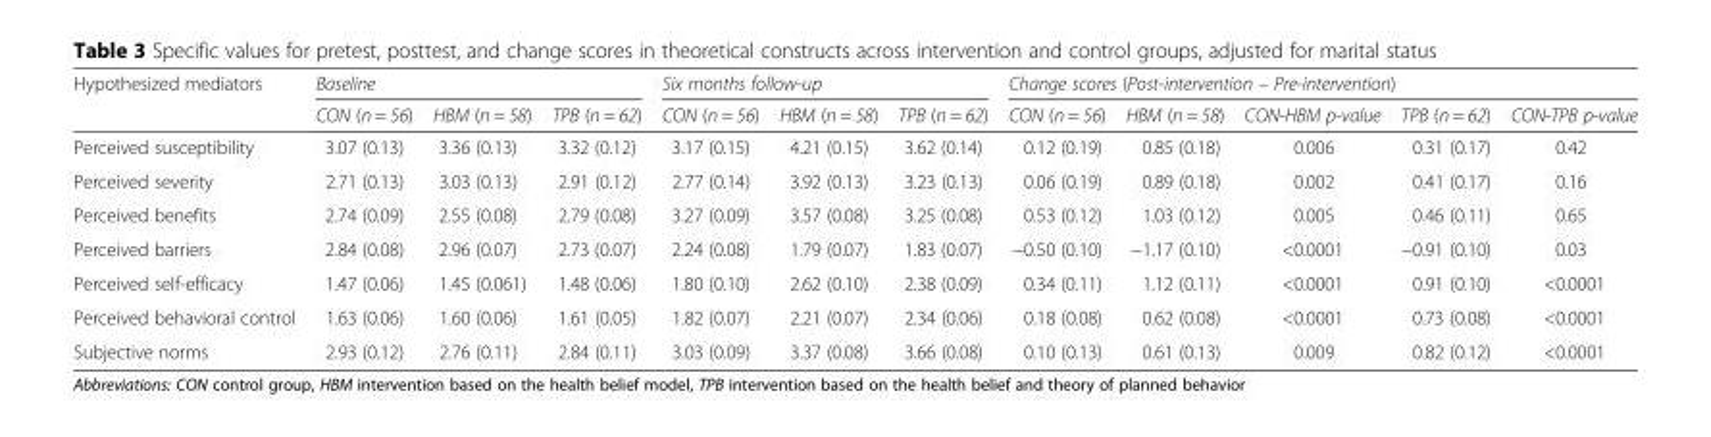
<table><thead><tr><td rowspan="2">Hypothesized mediators</td><td colspan="3">Baseline</td><td colspan="3">Six months follow-up</td><td colspan="5">Change scores (Post-intervention – Pre-intervention)</td></tr><tr><td>CON (n = 56)</td><td>HBM (n = 58)</td><td>TPB (n = 62)</td><td>CON (n = 56)</td><td>HBM (n = 58)</td><td>TPB (n = 62)</td><td>CON (n = 56)</td><td>HBM (n = 58)</td><td>CON-HBM p-value</td><td>TPB (n = 62)</td><td>CON-TPB p-value</td></tr></thead><tbody><tr><td>Perceived susceptibility</td><td>3.07 (0.13)</td><td>3.36 (0.13)</td><td>3.32 (0.12)</td><td>3.17 (0.15)</td><td>4.21 (0.15)</td><td>3.62 (0.14)</td><td>0.12 (0.19)</td><td>0.85 (0.18)</td><td>0.006</td><td>0.31 (0.17)</td><td>0.42</td></tr><tr><td>Perceived severity</td><td>2.71 (0.13)</td><td>3.03 (0.13)</td><td>2.91 (0.12)</td><td>2.77 (0.14)</td><td>3.92 (0.13)</td><td>3.23 (0.13)</td><td>0.06 (0.19)</td><td>0.89 (0.18)</td><td>0.002</td><td>0.41 (0.17)</td><td>0.16</td></tr><tr><td>Perceived benefits</td><td>2.74 (0.09)</td><td>2.55 (0.08)</td><td>2.79 (0.08)</td><td>3.27 (0.09)</td><td>3.57 (0.08)</td><td>3.25 (0.08)</td><td>0.53 (0.12)</td><td>1.03 (0.12)</td><td>0.005</td><td>0.46 (0.11)</td><td>0.65</td></tr><tr><td>Perceived barriers</td><td>2.84 (0.08)</td><td>2.96 (0.07)</td><td>2.73 (0.07)</td><td>2.24 (0.08)</td><td>1.79 (0.07)</td><td>1.83 (0.07)</td><td>−0.50 (0.10)</td><td>−1.17 (0.10)</td><td>&lt;0.0001</td><td>−0.91 (0.10)</td><td>0.03</td></tr><tr><td>Perceived self-efficacy</td><td>1.47 (0.06)</td><td>1.45 (0.061)</td><td>1.48 (0.06)</td><td>1.80 (0.10)</td><td>2.62 (0.10)</td><td>2.38 (0.09)</td><td>0.34 (0.11)</td><td>1.12 (0.11)</td><td>&lt;0.0001</td><td>0.91 (0.10)</td><td>&lt;0.0001</td></tr><tr><td>Perceived behavioral control</td><td>1.63 (0.06)</td><td>1.60 (0.06)</td><td>1.61 (0.05)</td><td>1.82 (0.07)</td><td>2.21 (0.07)</td><td>2.34 (0.06)</td><td>0.18 (0.08)</td><td>0.62 (0.08)</td><td>&lt;0.0001</td><td>0.73 (0.08)</td><td>&lt;0.0001</td></tr><tr><td>Subjective norms</td><td>2.93 (0.12)</td><td>2.76 (0.11)</td><td>2.84 (0.11)</td><td>3.03 (0.09)</td><td>3.37 (0.08)</td><td>3.66 (0.08)</td><td>0.10 (0.13)</td><td>0.61 (0.13)</td><td>0.009</td><td>0.82 (0.12)</td><td>&lt;0.0001</td></tr></tbody></table>